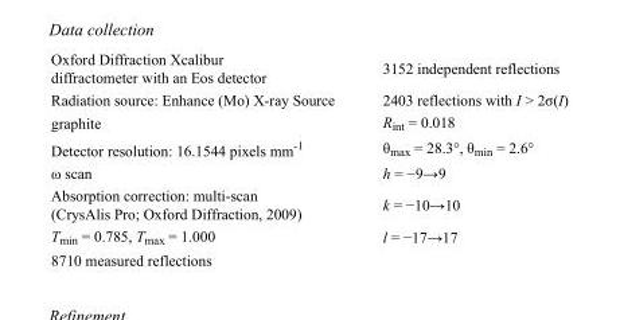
<table><tbody><tr><td>Oxford Diffraction Xcalibur diffractometer with an Eos detector</td><td>3152 independent reflections</td></tr><tr><td>Radiation source: Enhance (Mo) X-ray Source</td><td>2403 reflections with I &gt; 2σ(I)</td></tr><tr><td>graphite</td><td>R<sub>int</sub> = 0.018</td></tr><tr><td>Detector resolution: 16.1544 pixels mm<sup>-1</sup></td><td>θ<sub>max</sub> = 28.3°, θ<sub>min</sub> = 2.6°</td></tr><tr><td>ω scan</td><td>h = −9→9</td></tr><tr><td>Absorption correction: multi-scan (CrysAlis Pro; Oxford Diffraction, 2009)</td><td>k = −10→10</td></tr><tr><td>T<sub>min</sub> = 0.785, T<sub>max</sub> = 1.000</td><td>l = −17→17</td></tr><tr><td>8710 measured reflections</td><td></td></tr></tbody></table>